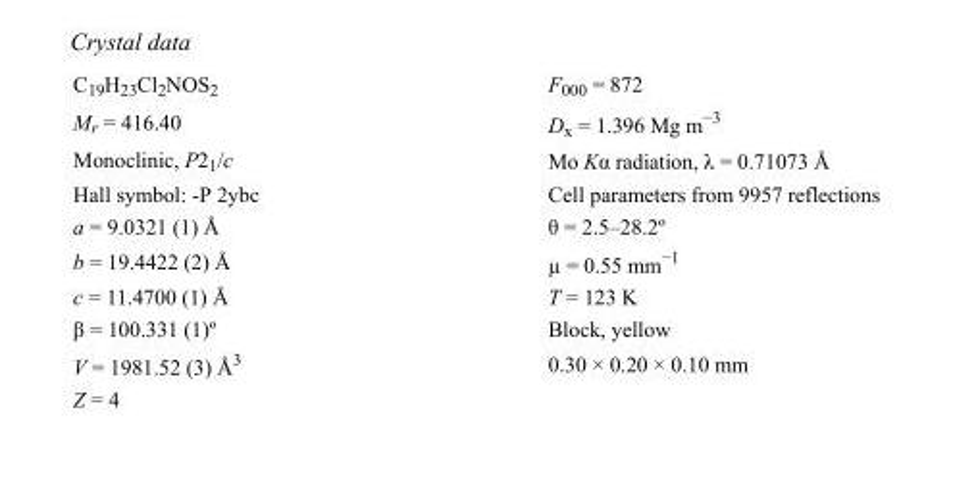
<table><tbody><tr><td>C<sub>19</sub>H<sub>23</sub>Cl<sub>2</sub>NOS<sub>2</sub></td><td>F000 = 872</td></tr><tr><td>M<sub>r</sub> = 416.40</td><td>D<sub>x</sub> = 1.396 Mg m<sup>−3</sup></td></tr><tr><td>Monoclinic, P2<sub>1</sub>/c</td><td>Mo Kα radiation, λ = 0.71073 Å</td></tr><tr><td>Hall symbol: -P 2ybc</td><td>Cell parameters from 9957 reflections</td></tr><tr><td>a = 9.0321 (1) Å</td><td>θ = 2.5–28.2º</td></tr><tr><td>b = 19.4422 (2) Å</td><td>µ = 0.55 mm<sup>−1</sup></td></tr><tr><td>c = 11.4700 (1) Å</td><td>T = 123 K</td></tr><tr><td>β = 100.331 (1)º</td><td>Block, yellow</td></tr><tr><td>V = 1981.52 (3) Å<sup>3</sup></td><td>0.30 × 0.20 × 0.10 mm</td></tr><tr><td>Z = 4</td><td></td></tr></tbody></table>